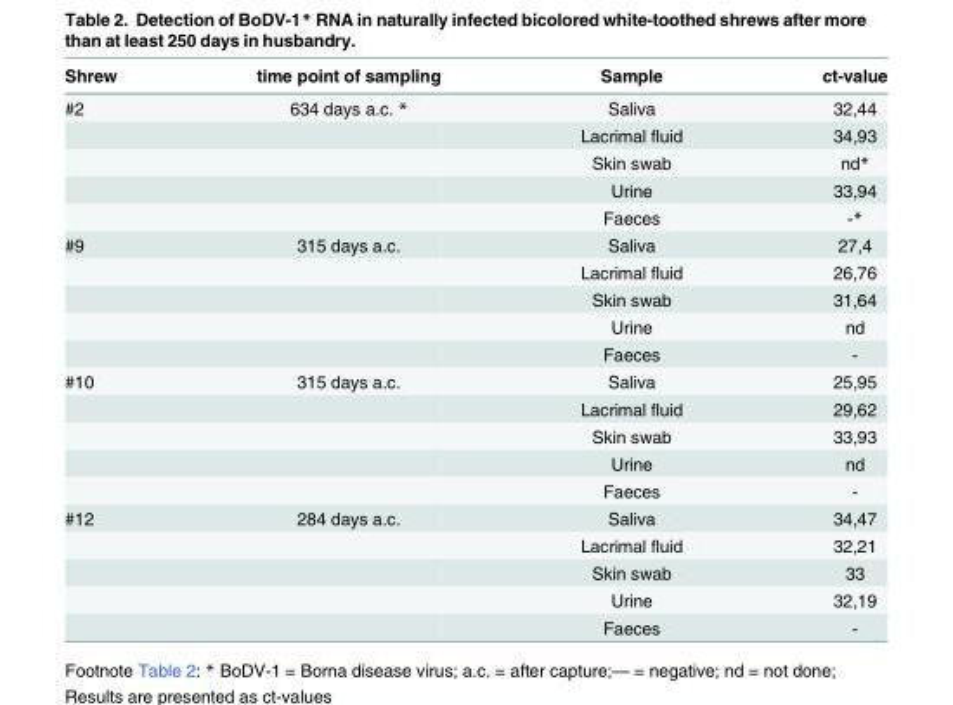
<table><thead><tr><td>Shrew</td><td>time point of sampling</td><td>Sample</td><td>ct-value</td></tr></thead><tbody><tr><td rowspan="5">#2</td><td>634 days a.c. *</td><td>Saliva</td><td>32,44</td></tr><tr><td></td><td>Lacrimal fluid</td><td>34,93</td></tr><tr><td></td><td>Skin swab</td><td>nd*</td></tr><tr><td></td><td>Urine</td><td>33,94</td></tr><tr><td></td><td>Faeces</td><td>-*</td></tr><tr><td rowspan="5">#9</td><td>315 days a.c.</td><td>Saliva</td><td>27,4</td></tr><tr><td></td><td>Lacrimal fluid</td><td>26,76</td></tr><tr><td></td><td>Skin swab</td><td>31,64</td></tr><tr><td></td><td>Urine</td><td>nd</td></tr><tr><td></td><td>Faeces</td><td>-</td></tr><tr><td rowspan="5">#10</td><td>315 days a.c.</td><td>Saliva</td><td>25,95</td></tr><tr><td></td><td>Lacrimal fluid</td><td>29,62</td></tr><tr><td></td><td>Skin swab</td><td>33,93</td></tr><tr><td></td><td>Urine</td><td>nd</td></tr><tr><td></td><td>Faeces</td><td>-</td></tr><tr><td rowspan="5">#12</td><td>284 days a.c.</td><td>Saliva</td><td>34,47</td></tr><tr><td></td><td>Lacrimal fluid</td><td>32,21</td></tr><tr><td></td><td>Skin swab</td><td>33</td></tr><tr><td></td><td>Urine</td><td>32,19</td></tr><tr><td></td><td>Faeces</td><td>-</td></tr></tbody></table>